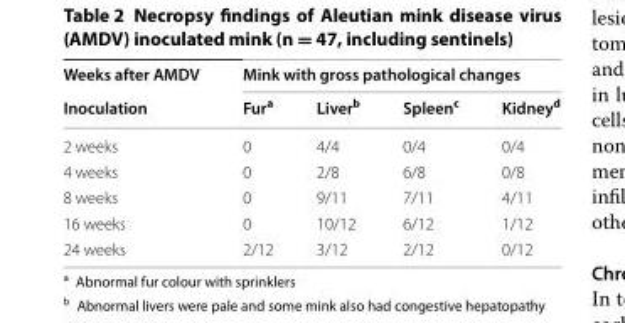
<table><thead><tr><td rowspan="2">Weeks after AMDV Inoculation</td><td colspan="4">Mink with gross pathological changes</td></tr><tr><td>Fur<sup>a</sup></td><td>Liver<sup>b</sup></td><td>Spleen<sup>c</sup></td><td>Kidney<sup>d</sup></td></tr></thead><tbody><tr><td>2 weeks</td><td>0</td><td>4/4</td><td>0/4</td><td>0/4</td></tr><tr><td>4 weeks</td><td>0</td><td>2/8</td><td>6/8</td><td>0/8</td></tr><tr><td>8 weeks</td><td>0</td><td>9/11</td><td>7/11</td><td>4/11</td></tr><tr><td>16 weeks</td><td>0</td><td>10/12</td><td>6/12</td><td>1/12</td></tr><tr><td>24 weeks</td><td>2/12</td><td>3/12</td><td>2/12</td><td>0/12</td></tr></tbody></table>